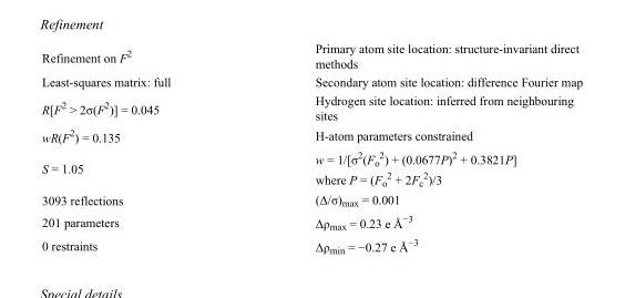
<table><tbody><tr><td>Refinement on F<sup>2</sup></td><td>Primary atom site location: structure-invariant direct methods</td></tr><tr><td>Least-squares matrix: full</td><td>Secondary atom site location: difference Fourier map</td></tr><tr><td>R[F<sup>2</sup> &gt; 2σ(F<sup>2</sup>)] = 0.045</td><td>Hydrogen site location: inferred from neighbouring sites</td></tr><tr><td>wR(F<sup>2</sup>) = 0.135</td><td>H-atom parameters constrained</td></tr><tr><td>S = 1.05</td><td>w = 1/[σ<sup>2</sup>(F<sub>o</sub> <sup>2</sup>) + (0.0677P)<sup>2</sup> + 0.3821P] where P = (F<sub>o</sub> <sup>2</sup> + 2F<sub>c</sub> <sup>2</sup>)/3</td></tr><tr><td>3093 reflections</td><td>(Δ/σ)<sub>max</sub> = 0.001</td></tr><tr><td>201 parameters</td><td>Δρ<sub>max</sub> = 0.23 e Å<sup>−3</sup></td></tr><tr><td>0 restraints</td><td>Δρ<sub>min</sub> = −0.27 e Å<sup>−3</sup></td></tr></tbody></table>